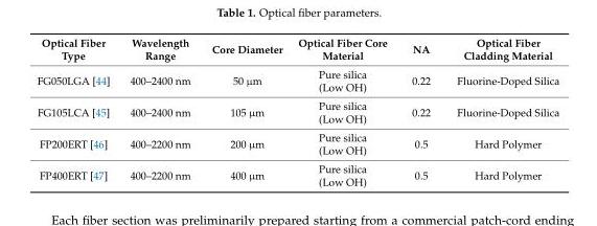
<table><thead><tr><td>Optical Fiber Type</td><td>Wavelength Range</td><td>Core Diameter</td><td>Optical Fiber Core Material</td><td>NA</td><td>Optical Fiber Cladding Material</td></tr></thead><tbody><tr><td>FG050LGA [44]</td><td>400–2400 nm</td><td>50 µm</td><td>Pure silica (Low OH)</td><td>0.22</td><td>Fluorine-Doped Silica</td></tr><tr><td>FG105LCA [45]</td><td>400–2400 nm</td><td>105 µm</td><td>Pure silica (Low OH)</td><td>0.22</td><td>Fluorine-Doped Silica</td></tr><tr><td>FP200ERT [46]</td><td>400–2200 nm</td><td>200 µm</td><td>Pure silica (Low OH)</td><td>0.5</td><td>Hard Polymer</td></tr><tr><td>FP400ERT [47]</td><td>400–2200 nm</td><td>400 µm</td><td>Pure silica (Low OH)</td><td>0.5</td><td>Hard Polymer</td></tr></tbody></table>